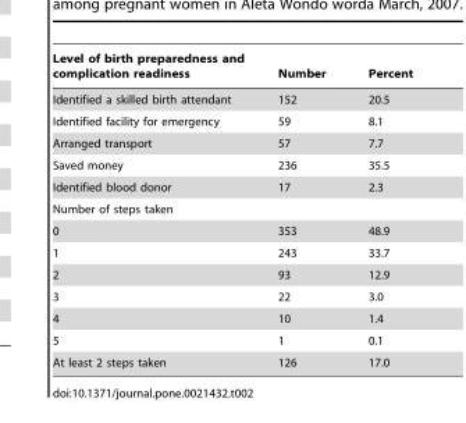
<table><thead><tr><td>Level of birth preparedness and complication readiness</td><td>Number</td><td>Percent</td></tr></thead><tbody><tr><td>Identified a skilled birth attendant</td><td>152</td><td>20.5</td></tr><tr><td>Identified facility for emergency</td><td>59</td><td>8.1</td></tr><tr><td>Arranged transport</td><td>57</td><td>7.7</td></tr><tr><td>Saved money</td><td>236</td><td>35.5</td></tr><tr><td>Identified blood donor</td><td>17</td><td>2.3</td></tr><tr><td colspan="3">Number of steps taken</td></tr><tr><td>0</td><td>353</td><td>48.9</td></tr><tr><td>1</td><td>243</td><td>33.7</td></tr><tr><td>2</td><td>93</td><td>12.9</td></tr><tr><td>3</td><td>22</td><td>3.0</td></tr><tr><td>4</td><td>10</td><td>1.4</td></tr><tr><td>5</td><td>1</td><td>0.1</td></tr><tr><td>At least 2 steps taken</td><td>126</td><td>17.0</td></tr></tbody></table>